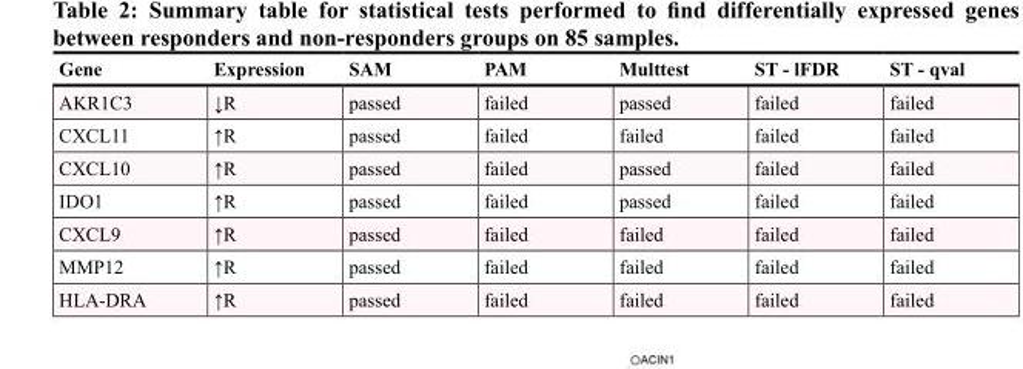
<table><thead><tr><td>Gene</td><td>Expression</td><td>SAM</td><td>PAM</td><td>Multtest</td><td>ST - lFDR</td><td>ST - qval</td></tr></thead><tbody><tr><td>AKR1C3</td><td>↓R</td><td>passed</td><td>failed</td><td>passed</td><td>failed</td><td>failed</td></tr><tr><td>CXCL11</td><td>↑R</td><td>passed</td><td>failed</td><td>failed</td><td>failed</td><td>failed</td></tr><tr><td>CXCL10</td><td>↑R</td><td>passed</td><td>failed</td><td>passed</td><td>failed</td><td>failed</td></tr><tr><td>IDO1</td><td>↑R</td><td>passed</td><td>failed</td><td>passed</td><td>failed</td><td>failed</td></tr><tr><td>CXCL9</td><td>↑R</td><td>passed</td><td>failed</td><td>failed</td><td>failed</td><td>failed</td></tr><tr><td>MMP12</td><td>↑R</td><td>passed</td><td>failed</td><td>failed</td><td>failed</td><td>failed</td></tr><tr><td>HLA-DRA</td><td>↑R</td><td>passed</td><td>failed</td><td>failed</td><td>failed</td><td>failed</td></tr></tbody></table>